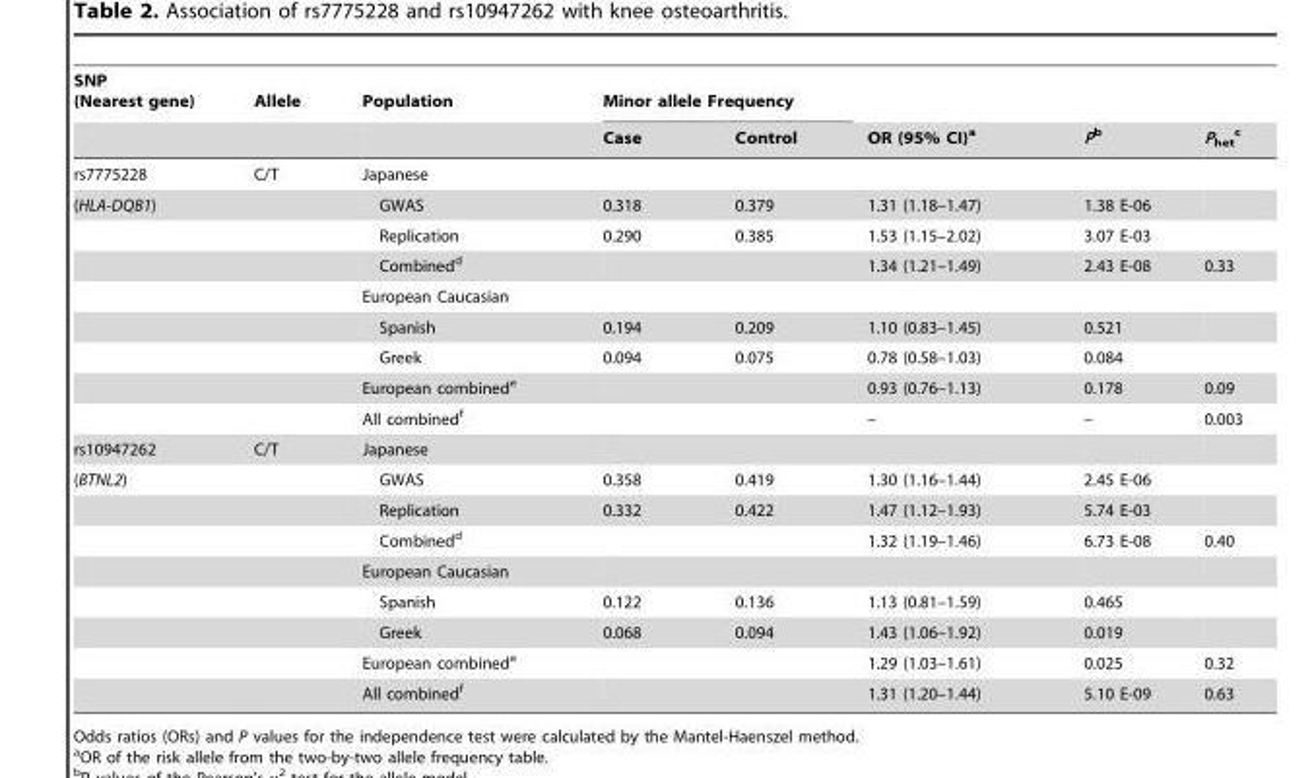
<table><thead><tr><td rowspan="2">SNP (Nearest gene)</td><td rowspan="2">Allele</td><td rowspan="2">Population</td><td colspan="2">Minor allele Frequency</td><td rowspan="2">OR (95% CI)<sup>a</sup></td><td rowspan="2">Pb</td><td rowspan="2">P<sub>het</sub> c</td></tr><tr><td>Case</td><td>Control</td></tr></thead><tbody><tr><td>rs7775228</td><td>C/T</td><td>Japanese</td><td></td><td></td><td></td><td></td><td></td></tr><tr><td rowspan="8">(HLA-DQB1)</td><td></td><td>GWAS</td><td>0.318</td><td>0.379</td><td>1.31 (1.18–1.47)</td><td>1.38 E-06</td><td></td></tr><tr><td></td><td>Replication</td><td>0.290</td><td>0.385</td><td>1.53 (1.15–2.02)</td><td>3.07 E-03</td><td></td></tr><tr><td></td><td>Combined<sup>d</sup></td><td></td><td></td><td>1.34 (1.21–1.49)</td><td>2.43 E-08</td><td>0.33</td></tr><tr><td></td><td>European Caucasian</td><td></td><td></td><td></td><td></td><td></td></tr><tr><td></td><td>Spanish</td><td>0.194</td><td>0.209</td><td>1.10 (0.83–1.45)</td><td>0.521</td><td></td></tr><tr><td></td><td>Greek</td><td>0.094</td><td>0.075</td><td>0.78 (0.58–1.03)</td><td>0.084</td><td></td></tr><tr><td></td><td>European combined<sup>e</sup></td><td></td><td></td><td>0.93 (0.76–1.13)</td><td>0.178</td><td>0.09</td></tr><tr><td></td><td>All combined<sup>f</sup></td><td></td><td></td><td>–</td><td>–</td><td>0.003</td></tr><tr><td>rs10947262</td><td>C/T</td><td>Japanese</td><td></td><td></td><td></td><td></td><td></td></tr><tr><td rowspan="8">(BTNL2)</td><td></td><td>GWAS</td><td>0.358</td><td>0.419</td><td>1.30 (1.16–1.44)</td><td>2.45 E-06</td><td></td></tr><tr><td></td><td>Replication</td><td>0.332</td><td>0.422</td><td>1.47 (1.12–1.93)</td><td>5.74 E-03</td><td></td></tr><tr><td></td><td>Combined<sup>d</sup></td><td></td><td></td><td>1.32 (1.19–1.46)</td><td>6.73 E-08</td><td>0.40</td></tr><tr><td></td><td>European Caucasian</td><td></td><td></td><td></td><td></td><td></td></tr><tr><td></td><td>Spanish</td><td>0.122</td><td>0.136</td><td>1.13 (0.81–1.59)</td><td>0.465</td><td></td></tr><tr><td></td><td>Greek</td><td>0.068</td><td>0.094</td><td>1.43 (1.06–1.92)</td><td>0.019</td><td></td></tr><tr><td></td><td>European combined<sup>e</sup></td><td></td><td></td><td>1.29 (1.03–1.61)</td><td>0.025</td><td>0.32</td></tr><tr><td></td><td>All combined<sup>f</sup></td><td></td><td></td><td>1.31 (1.20–1.44)</td><td>5.10 E-09</td><td>0.63</td></tr></tbody></table>